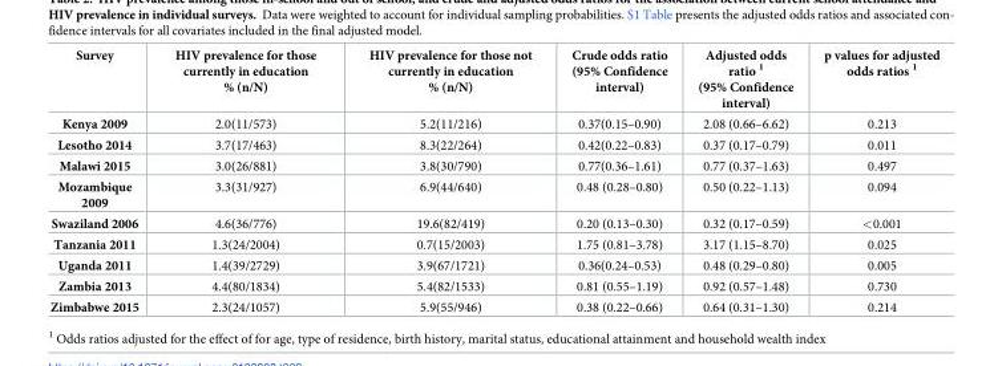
<table><thead><tr><td>Survey</td><td>HIV prevalence for those currently in education % (n/N)</td><td>HIV prevalence for those not currently in education % (n/N)</td><td>Crude odds ratio (95% Confidence interval)</td><td>Adjusted odds ratio <sup>1</sup> (95% Confidence interval)</td><td>p values for adjusted odds ratios <sup>1</sup></td></tr></thead><tbody><tr><td>Kenya 2009</td><td>2.0(11/573)</td><td>5.2(11/216)</td><td>0.37(0.15–0.90)</td><td>2.08 (0.66–6.62)</td><td>0.213</td></tr><tr><td>Lesotho 2014</td><td>3.7(17/463)</td><td>8.3(22/264)</td><td>0.42(0.22–0.83)</td><td>0.37 (0.17–0.79)</td><td>0.011</td></tr><tr><td>Malawi 2015</td><td>3.0(26/881)</td><td>3.8(30/790)</td><td>0.77(0.36–1.61)</td><td>0.77 (0.37–1.63)</td><td>0.497</td></tr><tr><td>Mozambique 2009</td><td>3.3(31/927)</td><td>6.9(44/640)</td><td>0.48 (0.28–0.80)</td><td>0.50 (0.22–1.13)</td><td>0.094</td></tr><tr><td>Swaziland 2006</td><td>4.6(36/776)</td><td>19.6(82/419)</td><td>0.20 (0.13–0.30)</td><td>0.32 (0.17–0.59)</td><td>&lt;0.001</td></tr><tr><td>Tanzania 2011</td><td>1.3(24/2004)</td><td>0.7(15/2003)</td><td>1.75 (0.81–3.78)</td><td>3.17 (1.15–8.70)</td><td>0.025</td></tr><tr><td>Uganda 2011</td><td>1.4(39/2729)</td><td>3.9(67/1721)</td><td>0.36(0.24–0.53)</td><td>0.48 (0.29–0.80)</td><td>0.005</td></tr><tr><td>Zambia 2013</td><td>4.4(80/1834)</td><td>5.4(82/1533)</td><td>0.81 (0.55–1.19)</td><td>0.92 (0.57–1.48)</td><td>0.730</td></tr><tr><td>Zimbabwe 2015</td><td>2.3(24/1057)</td><td>5.9(55/946)</td><td>0.38 (0.22–0.66)</td><td>0.64 (0.31–1.30)</td><td>0.214</td></tr></tbody></table>